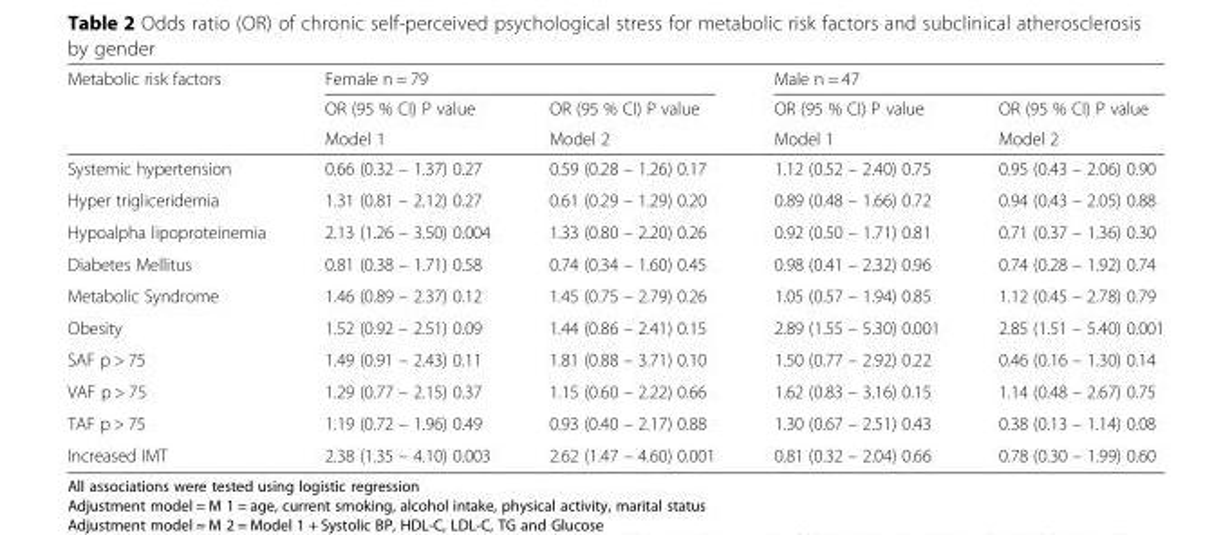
<table><thead><tr><td rowspan="3">Metabolic risk factors</td><td colspan="2">Female n = 79</td><td colspan="2">Male n = 47</td></tr><tr><td rowspan="2">OR (95 % CI) P value Model 1</td><td rowspan="2">OR (95 % CI) P value Model 2</td><td rowspan="2">OR (95 % CI) P value Model 1</td><td rowspan="2">OR (95 % CI) P value Model 2</td></tr><tr></tr></thead><tbody><tr><td>Systemic hypertension</td><td>0.66 (0.32 – 1.37) 0.27</td><td>0.59 (0.28 – 1.26) 0.17</td><td>1.12 (0.52 – 2.40) 0.75</td><td>0.95 (0.43 – 2.06) 0.90</td></tr><tr><td>Hyper trigliceridemia</td><td>1.31 (0.81 – 2.12) 0.27</td><td>0.61 (0.29 – 1.29) 0.20</td><td>0.89 (0.48 – 1.66) 0.72</td><td>0.94 (0.43 – 2.05) 0.88</td></tr><tr><td>Hypoalpha lipoproteinemia</td><td>2.13 (1.26 – 3.50) 0.004</td><td>1.33 (0.80 – 2.20) 0.26</td><td>0.92 (0.50 – 1.71) 0.81</td><td>0.71 (0.37 – 1.36) 0.30</td></tr><tr><td>Diabetes Mellitus</td><td>0.81 (0.38 – 1.71) 0.58</td><td>0.74 (0.34 – 1.60) 0.45</td><td>0.98 (0.41 – 2.32) 0.96</td><td>0.74 (0.28 – 1.92) 0.74</td></tr><tr><td>Metabolic Syndrome</td><td>1.46 (0.89 – 2.37) 0.12</td><td>1.45 (0.75 – 2.79) 0.26</td><td>1.05 (0.57 – 1.94) 0.85</td><td>1.12 (0.45 – 2.78) 0.79</td></tr><tr><td>Obesity</td><td>1.52 (0.92 – 2.51) 0.09</td><td>1.44 (0.86 – 2.41) 0.15</td><td>2.89 (1.55 – 5.30) 0.001</td><td>2.85 (1.51 – 5.40) 0.001</td></tr><tr><td>SAF p &gt; 75</td><td>1.49 (0.91 – 2.43) 0.11</td><td>1.81 (0.88 – 3.71) 0.10</td><td>1.50 (0.77 – 2.92) 0.22</td><td>0.46 (0.16 – 1.30) 0.14</td></tr><tr><td>VAF p &gt; 75</td><td>1.29 (0.77 – 2.15) 0.37</td><td>1.15 (0.60 – 2.22) 0.66</td><td>1.62 (0.83 – 3.16) 0.15</td><td>1.14 (0.48 – 2.67) 0.75</td></tr><tr><td>TAF p &gt; 75</td><td>1.19 (0.72 – 1.96) 0.49</td><td>0.93 (0.40 – 2.17) 0.88</td><td>1.30 (0.67 – 2.51) 0.43</td><td>0.38 (0.13 – 1.14) 0.08</td></tr><tr><td>Increased IMT</td><td>2.38 (1.35 – 4.10) 0.003</td><td>2.62 (1.47 – 4.60) 0.001</td><td>0.81 (0.32 – 2.04) 0.66</td><td>0.78 (0.30 – 1.99) 0.60</td></tr></tbody></table>